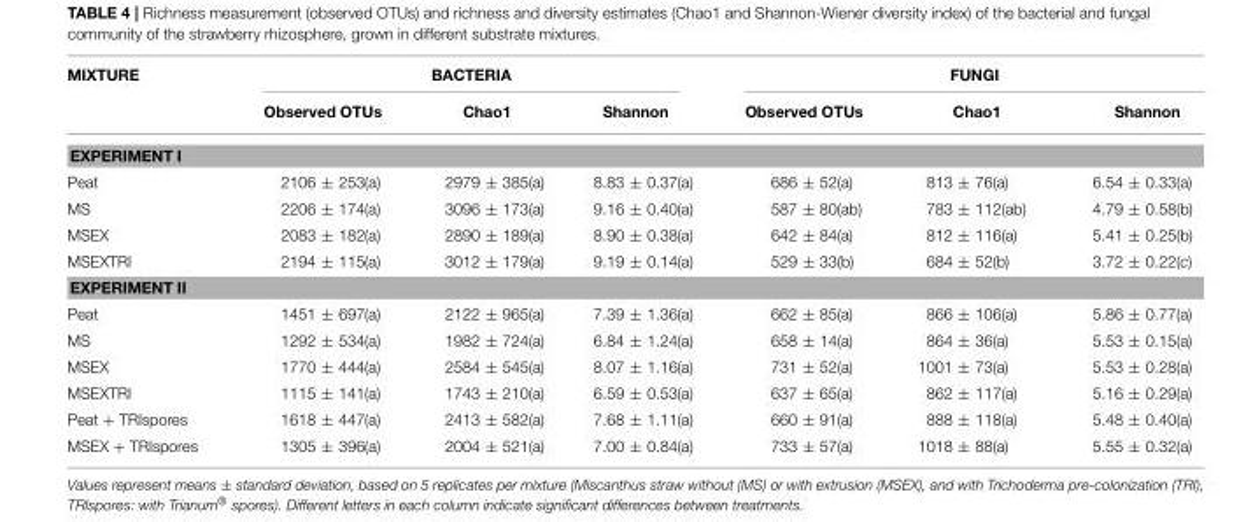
<table><thead><tr><td rowspan="2">MIXTURE</td><td colspan="3">BACTERIA</td><td colspan="3">FUNGI</td></tr><tr><td>Observed OTUs</td><td>Chao1</td><td>Shannon</td><td>Observed OTUs</td><td>Chao1</td><td>Shannon</td></tr></thead><tbody><tr><td colspan="7">EXPERIMENT I</td></tr><tr><td>Peat</td><td>2106 ± 253(a)</td><td>2979 ± 385(a)</td><td>8.83 ± 0.37(a)</td><td>686 ± 52(a)</td><td>813 ± 76(a)</td><td>6.54 ± 0.33(a)</td></tr><tr><td>MS</td><td>2206 ± 174(a)</td><td>3096 ± 173(a)</td><td>9.16 ± 0.40(a)</td><td>587 ± 80(ab)</td><td>783 ± 112(ab)</td><td>4.79 ± 0.58(b)</td></tr><tr><td>MSEX</td><td>2083 ± 182(a)</td><td>2890 ± 189(a)</td><td>8.90 ± 0.38(a)</td><td>642 ± 84(a)</td><td>812 ± 116(a)</td><td>5.41 ± 0.25(b)</td></tr><tr><td>MSEXTRI</td><td>2194 ± 115(a)</td><td>3012 ± 179(a)</td><td>9.19 ± 0.14(a)</td><td>529 ± 33(b)</td><td>684 ± 52(b)</td><td>3.72 ± 0.22(c)</td></tr><tr><td colspan="7">EXPERIMENT II</td></tr><tr><td>Peat</td><td>1451 ± 697(a)</td><td>2122 ± 965(a)</td><td>7.39 ± 1.36(a)</td><td>662 ± 85(a)</td><td>866 ± 106(a)</td><td>5.86 ± 0.77(a)</td></tr><tr><td>MS</td><td>1292 ± 534(a)</td><td>1982 ± 724(a)</td><td>6.84 ± 1.24(a)</td><td>658 ± 14(a)</td><td>864 ± 36(a)</td><td>5.53 ± 0.15(a)</td></tr><tr><td>MSEX</td><td>1770 ± 444(a)</td><td>2584 ± 545(a)</td><td>8.07 ± 1.16(a)</td><td>731 ± 52(a)</td><td>1001 ± 73(a)</td><td>5.53 ± 0.28(a)</td></tr><tr><td>MSEXTRI</td><td>1115 ± 141(a)</td><td>1743 ± 210(a)</td><td>6.59 ± 0.53(a)</td><td>637 ± 65(a)</td><td>862 ± 117(a)</td><td>5.16 ± 0.29(a)</td></tr><tr><td>Peat + TRIspores</td><td>1618 ± 447(a)</td><td>2413 ± 582(a)</td><td>7.68 ± 1.11(a)</td><td>660 ± 91(a)</td><td>888 ± 118(a)</td><td>5.48 ± 0.40(a)</td></tr><tr><td>MSEX + TRIspores</td><td>1305 ± 396(a)</td><td>2004 ± 521(a)</td><td>7.00 ± 0.84(a)</td><td>733 ± 57(a)</td><td>1018 ± 88(a)</td><td>5.55 ± 0.32(a)</td></tr></tbody></table>